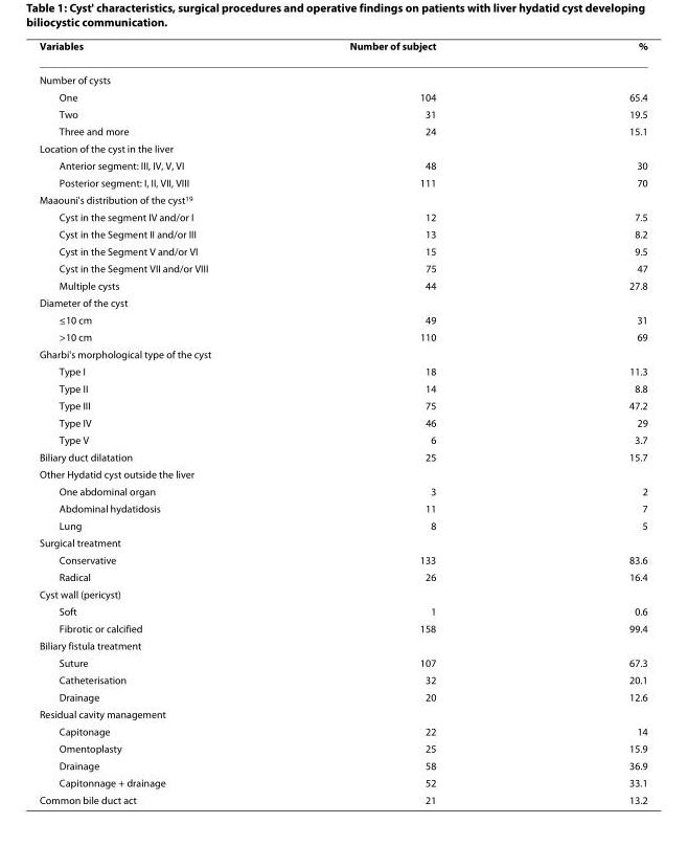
<table><thead><tr><td>Variables</td><td>Number of subject</td><td>%</td></tr></thead><tbody><tr><td colspan="3">Number of cysts</td></tr><tr><td>One</td><td>104</td><td>65.4</td></tr><tr><td>Two</td><td>31</td><td>19.5</td></tr><tr><td>Three and more</td><td>24</td><td>15.1</td></tr><tr><td colspan="3">Location of the cyst in the liver</td></tr><tr><td>Anterior segment: III, IV, V, VI</td><td>48</td><td>30</td></tr><tr><td>Posterior segment: I, II, VII, VIII</td><td>111</td><td>70</td></tr><tr><td colspan="3">Maaouni&#x27;s distribution of the cyst<sup>19</sup></td></tr><tr><td>Cyst in the segment IV and/or I</td><td>12</td><td>7.5</td></tr><tr><td>Cyst in the Segment II and/or III</td><td>13</td><td>8.2</td></tr><tr><td>Cyst in the Segment V and/or VI</td><td>15</td><td>9.5</td></tr><tr><td>Cyst in the Segment VII and/or VIII</td><td>75</td><td>47</td></tr><tr><td>Multiple cysts</td><td>44</td><td>27.8</td></tr><tr><td colspan="3">Diameter of the cyst</td></tr><tr><td>≤10 cm</td><td>49</td><td>31</td></tr><tr><td>&gt;10 cm</td><td>110</td><td>69</td></tr><tr><td colspan="3">Gharbi&#x27;s morphological type of the cyst</td></tr><tr><td>Type I</td><td>18</td><td>11.3</td></tr><tr><td>Type II</td><td>14</td><td>8.8</td></tr><tr><td>Type III</td><td>75</td><td>47.2</td></tr><tr><td>Type IV</td><td>46</td><td>29</td></tr><tr><td>Type V</td><td>6</td><td>3.7</td></tr><tr><td>Biliary duct dilatation</td><td>25</td><td>15.7</td></tr><tr><td colspan="3">Other Hydatid cyst outside the liver</td></tr><tr><td>One abdominal organ</td><td>3</td><td>2</td></tr><tr><td>Abdominal hydatidosis</td><td>11</td><td>7</td></tr><tr><td>Lung</td><td>8</td><td>5</td></tr><tr><td colspan="3">Surgical treatment</td></tr><tr><td>Conservative</td><td>133</td><td>83.6</td></tr><tr><td>Radical</td><td>26</td><td>16.4</td></tr><tr><td colspan="3">Cyst wall (pericyst)</td></tr><tr><td>Soft</td><td>1</td><td>0.6</td></tr><tr><td>Fibrotic or calcified</td><td>158</td><td>99.4</td></tr><tr><td colspan="3">Biliary fistula treatment</td></tr><tr><td>Suture</td><td>107</td><td>67.3</td></tr><tr><td>Catheterisation</td><td>32</td><td>20.1</td></tr><tr><td>Drainage</td><td>20</td><td>12.6</td></tr><tr><td colspan="3">Residual cavity management</td></tr><tr><td>Capitonage</td><td>22</td><td>14</td></tr><tr><td>Omentoplasty</td><td>25</td><td>15.9</td></tr><tr><td>Drainage</td><td>58</td><td>36.9</td></tr><tr><td>Capitonnage + drainage</td><td>52</td><td>33.1</td></tr><tr><td>Common bile duct act</td><td>21</td><td>13.2</td></tr></tbody></table>